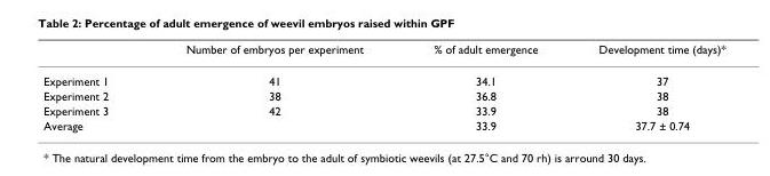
<table><thead><tr><td></td><td>Number of embryos per experiment</td><td>% of adult emergence</td><td>Development time (days)*</td></tr></thead><tbody><tr><td>Experiment 1</td><td>41</td><td>34.1</td><td>37</td></tr><tr><td>Experiment 2</td><td>38</td><td>36.8</td><td>38</td></tr><tr><td>Experiment 3</td><td>42</td><td>33.9</td><td>38</td></tr><tr><td>Average</td><td></td><td>33.9</td><td>37.7 ± 0.74</td></tr></tbody></table>